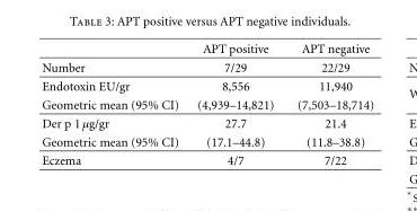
<table><thead><tr><td></td><td>APT positive</td><td>APT negative</td></tr></thead><tbody><tr><td>Number</td><td>7/29</td><td>22/29</td></tr><tr><td>Endotoxin EU/gr</td><td>8,556</td><td>11,940</td></tr><tr><td>Geometric mean (95% CI)</td><td>(4,939–14,821)</td><td>(7,503–18,714)</td></tr><tr><td>Der p 1 µg/gr</td><td>27.7</td><td>21.4</td></tr><tr><td>Geometric mean (95% CI)</td><td>(17.1–44.8)</td><td>(11.8–38.8)</td></tr><tr><td>Eczema</td><td>4/7</td><td>7/22</td></tr></tbody></table>